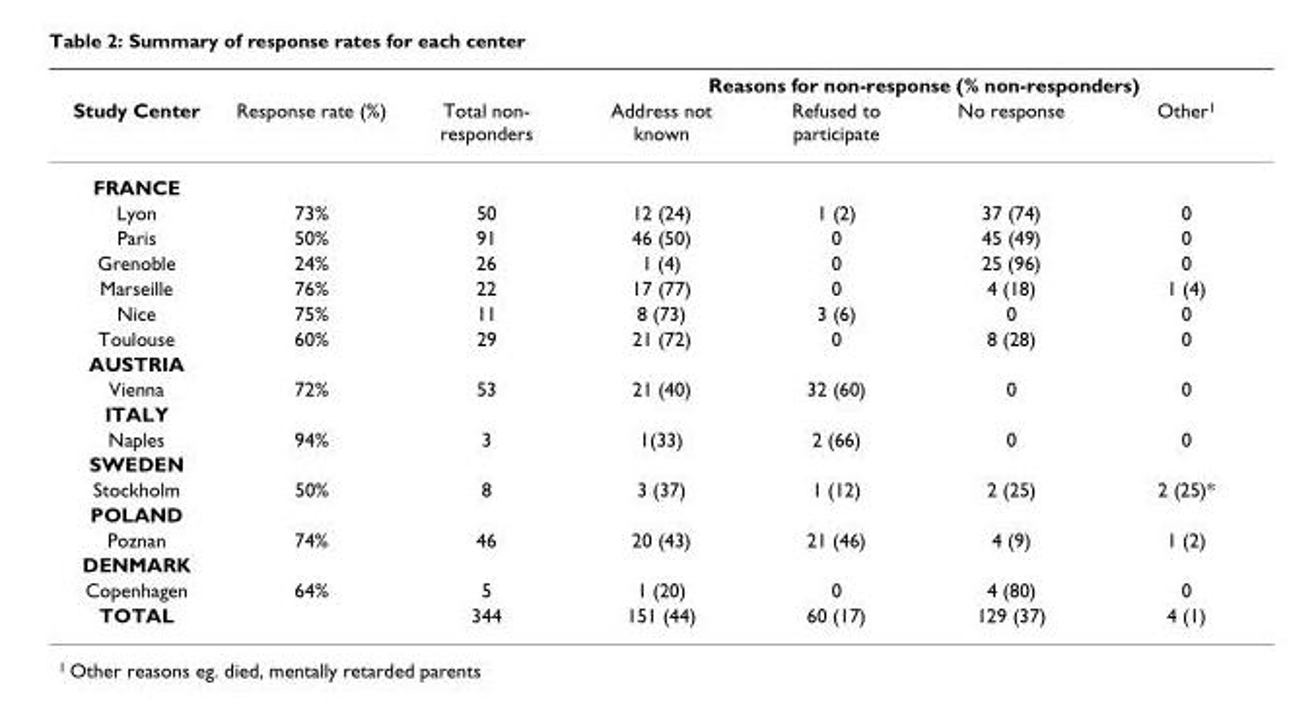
<table><thead><tr><td rowspan="2">Study Center</td><td rowspan="2">Response rate (%)</td><td rowspan="2">Total non- responders</td><td colspan="4">Reasons for non-response (% non-responders)</td></tr><tr><td>Address not known</td><td>Refused to participate</td><td>No response</td><td>Other<sup>1</sup></td></tr></thead><tbody><tr><td colspan="7">FRANCE</td></tr><tr><td>Lyon</td><td>73%</td><td>50</td><td>12 (24)</td><td>1 (2)</td><td>37 (74)</td><td>0</td></tr><tr><td>Paris</td><td>50%</td><td>91</td><td>46 (50)</td><td>0</td><td>45 (49)</td><td>0</td></tr><tr><td>Grenoble</td><td>24%</td><td>26</td><td>1 (4)</td><td>0</td><td>25 (96)</td><td>0</td></tr><tr><td>Marseille</td><td>76%</td><td>22</td><td>17 (77)</td><td>0</td><td>4 (18)</td><td>1 (4)</td></tr><tr><td>Nice</td><td>75%</td><td>11</td><td>8 (73)</td><td>3 (6)</td><td>0</td><td>0</td></tr><tr><td>Toulouse</td><td>60%</td><td>29</td><td>21 (72)</td><td>0</td><td>8 (28)</td><td>0</td></tr><tr><td colspan="7">AUSTRIA</td></tr><tr><td>Vienna</td><td>72%</td><td>53</td><td>21 (40)</td><td>32 (60)</td><td>0</td><td>0</td></tr><tr><td colspan="7">ITALY</td></tr><tr><td>Naples</td><td>94%</td><td>3</td><td>1(33)</td><td>2 (66)</td><td>0</td><td>0</td></tr><tr><td colspan="7">SWEDEN</td></tr><tr><td>Stockholm</td><td>50%</td><td>8</td><td>3 (37)</td><td>1 (12)</td><td>2 (25)</td><td>2 (25)*</td></tr><tr><td colspan="7">POLAND</td></tr><tr><td>Poznan</td><td>74%</td><td>46</td><td>20 (43)</td><td>21 (46)</td><td>4 (9)</td><td>1 (2)</td></tr><tr><td colspan="7">DENMARK</td></tr><tr><td>Copenhagen</td><td>64%</td><td>5</td><td>1 (20)</td><td>0</td><td>4 (80)</td><td>0</td></tr><tr><td>TOTAL</td><td></td><td>344</td><td>151 (44)</td><td>60 (17)</td><td>129 (37)</td><td>4 (1)</td></tr></tbody></table>